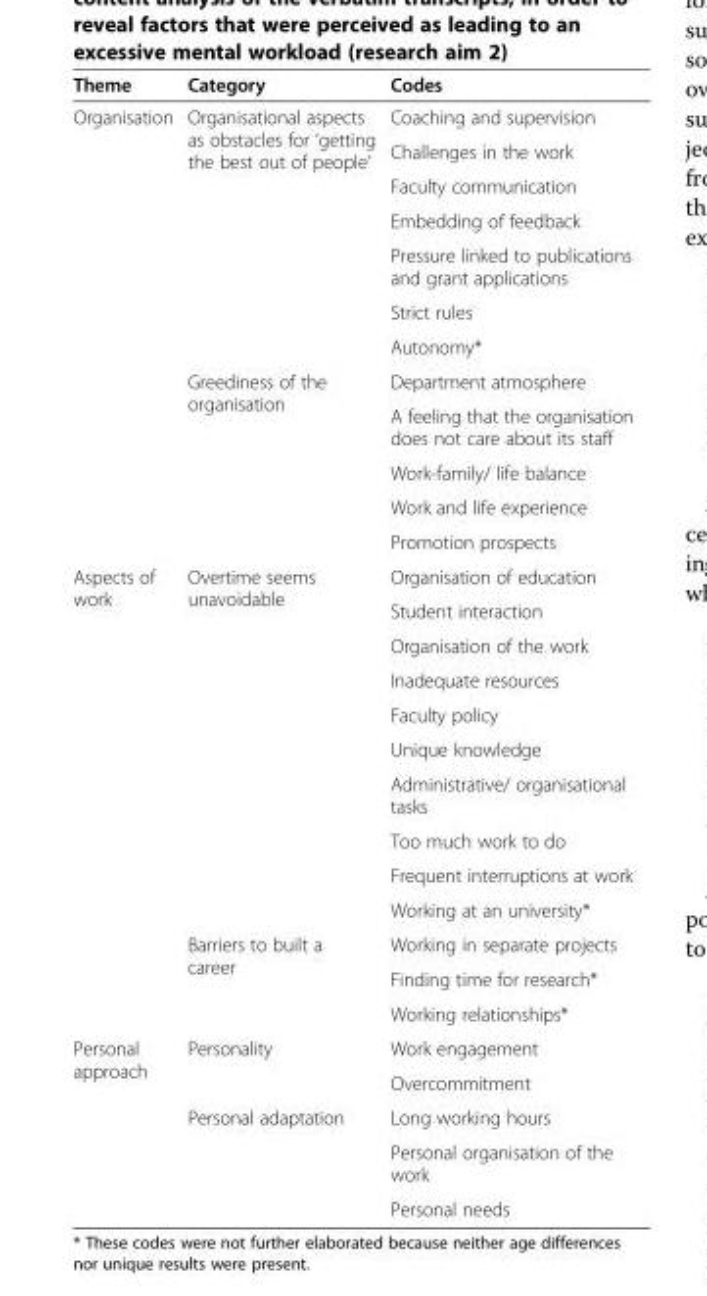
<table><thead><tr><td>Theme</td><td>Category</td><td>Codes</td></tr></thead><tbody><tr><td rowspan="12">Organisation</td><td rowspan="7">Organisational aspects as obstacles for ‘getting the best out of people’</td><td>Coaching and supervision</td></tr><tr><td>Challenges in the work</td></tr><tr><td>Faculty communication</td></tr><tr><td>Embedding of feedback</td></tr><tr><td>Pressure linked to publications and grant applications</td></tr><tr><td>Strict rules</td></tr><tr><td>Autonomy*</td></tr><tr><td rowspan="5">Greediness of the organisation</td><td>Department atmosphere</td></tr><tr><td>A feeling that the organisation does not care about its staff</td></tr><tr><td>Work-family/ life balance</td></tr><tr><td>Work and life experience</td></tr><tr><td>Promotion prospects</td></tr><tr><td rowspan="13">Aspects of work</td><td rowspan="10">Overtime seems unavoidable</td><td>Organisation of education</td></tr><tr><td>Student interaction</td></tr><tr><td>Organisation of the work</td></tr><tr><td>Inadequate resources</td></tr><tr><td>Faculty policy</td></tr><tr><td>Unique knowledge</td></tr><tr><td>Administrative/ organisational tasks</td></tr><tr><td>Too much work to do</td></tr><tr><td>Frequent interruptions at work</td></tr><tr><td>Working at an university*</td></tr><tr><td rowspan="3">Barriers to built a career</td><td>Working in separate projects</td></tr><tr><td>Finding time for research*</td></tr><tr><td>Working relationships*</td></tr><tr><td rowspan="5">Personal approach</td><td rowspan="2">Personality</td><td>Work engagement</td></tr><tr><td>Overcommitment</td></tr><tr><td rowspan="3">Personal adaptation</td><td>Long working hours</td></tr><tr><td>Personal organisation of the work</td></tr><tr><td>Personal needs</td></tr></tbody></table>